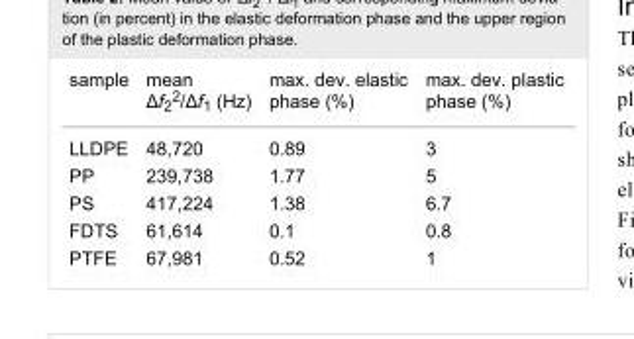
<table><tbody><tr><td>sample</td><td>mean Δf<sub>2</sub><sup>2</sup>/Δf<sub>1</sub> (Hz)</td><td>max. dev. elastic phase (%)</td><td>max. dev. plastic phase (%)</td></tr><tr><td>LLDPE</td><td>48,720</td><td>0.89</td><td>3</td></tr><tr><td>PP</td><td>239,738</td><td>1.77</td><td>5</td></tr><tr><td>PS</td><td>417,224</td><td>1.38</td><td>6.7</td></tr><tr><td>FDTS</td><td>61,614</td><td>0.1</td><td>0.8</td></tr><tr><td>PTFE</td><td>67,981</td><td>0.52</td><td>1</td></tr></tbody></table>